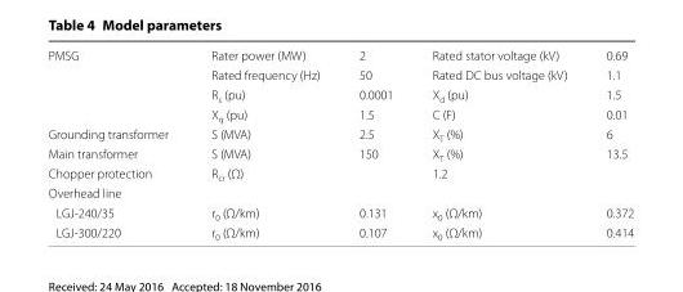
<table><tbody><tr><td rowspan="4">PMSG</td><td>Rater power (MW)</td><td>2</td><td>Rated stator voltage (kV)</td><td>0.69</td></tr><tr><td>Rated frequency (Hz)</td><td>50</td><td>Rated DC bus voltage (kV)</td><td>1.1</td></tr><tr><td>R<sub>s</sub> (pu)</td><td>0.0001</td><td>X<sub>d</sub> (pu)</td><td>1.5</td></tr><tr><td>X<sub>q</sub> (pu)</td><td>1.5</td><td>C (F)</td><td>0.01</td></tr><tr><td>Grounding transformer</td><td>S (MVA)</td><td>2.5</td><td>X<sub>T</sub> (%)</td><td>6</td></tr><tr><td>Main transformer</td><td>S (MVA)</td><td>150</td><td>X<sub>T</sub> (%)</td><td>13.5</td></tr><tr><td>Chopper protection</td><td colspan="2">R<sub>cr</sub> (Ω)</td><td colspan="2">1.2</td></tr><tr><td colspan="5">Overhead line</td></tr><tr><td>LGJ-240/35</td><td>r<sub>0</sub> (Ω/km)</td><td>0.131</td><td>x<sub>0</sub> (Ω/km)</td><td>0.372</td></tr><tr><td>LGJ-300/220</td><td>r<sub>0</sub> (Ω/km)</td><td>0.107</td><td>x<sub>0</sub> (Ω/km)</td><td>0.414</td></tr></tbody></table>